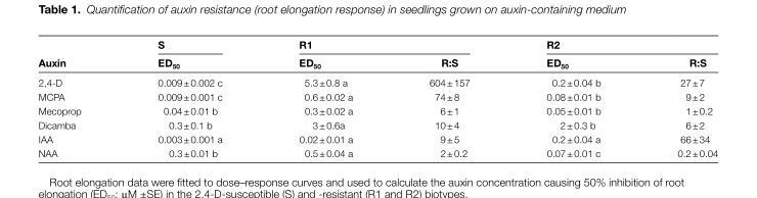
<table><thead><tr><td rowspan="2">Auxin</td><td rowspan="2">S ED<sub>50</sub></td><td colspan="2">R1</td><td colspan="2">R2</td></tr><tr><td>ED<sub>50</sub></td><td>R:S</td><td>ED<sub>50</sub></td><td>R:S</td></tr></thead><tbody><tr><td>2,4-D</td><td>0.009 ± 0.002 c</td><td>5.3 ± 0.8 a</td><td>604 ± 157</td><td>0.2 ± 0.04 b</td><td>27 ± 7</td></tr><tr><td>MCPA</td><td>0.009 ± 0.001 c</td><td>0.6 ± 0.02 a</td><td>74 ± 8</td><td>0.08 ± 0.01 b</td><td>9 ± 2</td></tr><tr><td>Mecoprop</td><td>0.04 ± 0.01 b</td><td>0.3 ± 0.02 a</td><td>6 ± 1</td><td>0.05 ± 0.01 b</td><td>1 ± 0.2</td></tr><tr><td>Dicamba</td><td>0.3 ± 0.1 b</td><td>3 ± 0.6a</td><td>10 ± 4</td><td>2 ± 0.3 b</td><td>6 ± 2</td></tr><tr><td>IAA</td><td>0.003 ± 0.001 a</td><td>0.02 ± 0.01 a</td><td>9 ± 5</td><td>0.2 ± 0.04 a</td><td>66 ± 34</td></tr><tr><td>NAA</td><td>0.3 ± 0.01 b</td><td>0.5 ± 0.04 a</td><td>2 ± 0.2</td><td>0.07 ± 0.01 c</td><td>0.2 ± 0.04</td></tr></tbody></table>